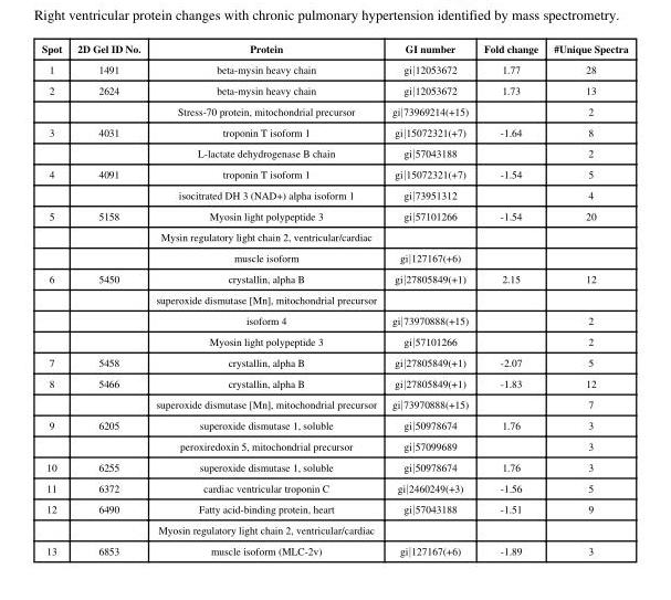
<table><thead><tr><td>Spot</td><td>2D Gel ID No.</td><td>Protein</td><td>GI number</td><td>Fold change</td><td>#Unique Spectra</td></tr></thead><tbody><tr><td>1</td><td>1491</td><td>beta-mysin heavy chain</td><td>gi∣12053672</td><td>1.77</td><td>28</td></tr><tr><td rowspan="2">2</td><td>2624</td><td>beta-mysin heavy chain</td><td>gi∣12053672</td><td>1.73</td><td>13</td></tr><tr><td></td><td>Stress-70 protein, mitochondrial precursor</td><td>gi∣73969214(+15)</td><td></td><td>2</td></tr><tr><td rowspan="2">3</td><td>4031</td><td>troponin T isoform 1</td><td>gi∣15072321(+7)</td><td>-1.64</td><td>8</td></tr><tr><td></td><td>L-lactate dehydrogenase B chain</td><td>gi∣57043188</td><td></td><td>2</td></tr><tr><td rowspan="2">4</td><td>4091</td><td>troponin T isoform 1</td><td>gi∣15072321(+7)</td><td>-1.54</td><td>5</td></tr><tr><td></td><td>isocitrated DH 3 (NAD+) alpha isoform 1</td><td>gi∣73951312</td><td></td><td>4</td></tr><tr><td rowspan="3">5</td><td>5158</td><td>Myosin light polypeptide 3</td><td>gi∣57101266</td><td>-1.54</td><td>20</td></tr><tr><td></td><td>Mysin regulatory light chain 2, ventricular/cardiac</td><td></td><td></td><td></td></tr><tr><td></td><td>muscle isoform</td><td>gi∣127167(+6)</td><td></td><td></td></tr><tr><td rowspan="4">6</td><td>5450</td><td>crystallin, alpha B</td><td>gi∣27805849(+1)</td><td>2.15</td><td>12</td></tr><tr><td></td><td>superoxide dismutase [Mn], mitochondrial precursor</td><td></td><td></td><td></td></tr><tr><td></td><td>isoform 4</td><td>gi∣73970888(+15)</td><td></td><td>2</td></tr><tr><td></td><td>Myosin light polypeptide 3</td><td>gi∣57101266</td><td></td><td>2</td></tr><tr><td>7</td><td>5458</td><td>crystallin, alpha B</td><td>gi∣27805849(+1)</td><td>-2.07</td><td>5</td></tr><tr><td rowspan="2">8</td><td>5466</td><td>crystallin, alpha B</td><td>gi∣27805849(+1)</td><td>-1.83</td><td>12</td></tr><tr><td></td><td>superoxide dismutase [Mn], mitochondrial precursor</td><td>gi∣73970888(+15)</td><td></td><td>7</td></tr><tr><td rowspan="2">9</td><td>6205</td><td>superoxide dismutase 1, soluble</td><td>gi∣50978674</td><td>1.76</td><td>3</td></tr><tr><td></td><td>peroxiredoxin 5, mitochondrial precursor</td><td>gi∣57099689</td><td></td><td>3</td></tr><tr><td>10</td><td>6255</td><td>superoxide dismutase 1, soluble</td><td>gi∣50978674</td><td>1.76</td><td>3</td></tr><tr><td>11</td><td>6372</td><td>cardiac ventricular troponin C</td><td>gi∣2460249(+3)</td><td>-1.56</td><td>5</td></tr><tr><td rowspan="2">12</td><td>6490</td><td>Fatty acid-binding protein, heart</td><td>gi∣57043188</td><td>-1.51</td><td>9</td></tr><tr><td></td><td>Myosin regulatory light chain 2, ventricular/cardiac</td><td></td><td></td><td></td></tr><tr><td>13</td><td>6853</td><td>muscle isoform (MLC-2v)</td><td>gi∣127167(+6)</td><td>-1.89</td><td>3</td></tr></tbody></table>